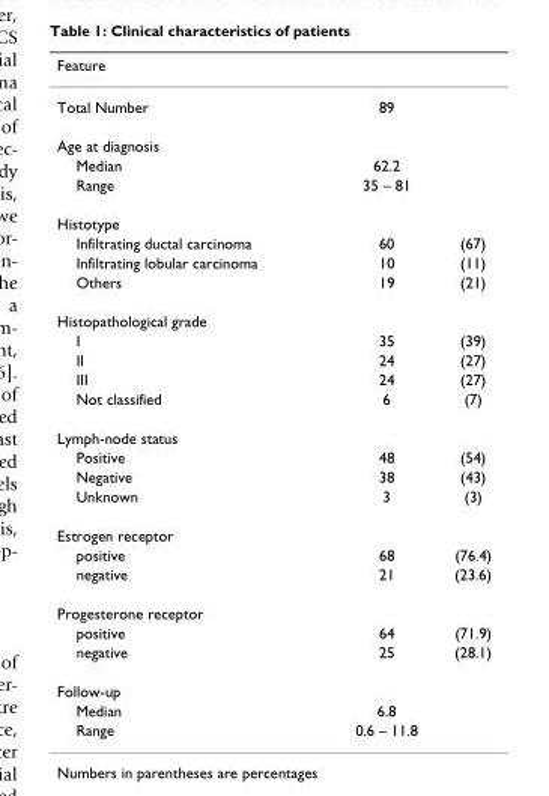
<table><thead><tr><td>Feature</td><td></td><td></td></tr></thead><tbody><tr><td>Total Number</td><td>89</td><td></td></tr><tr><td colspan="3">Age at diagnosis</td></tr><tr><td>Median</td><td>62.2</td><td></td></tr><tr><td>Range</td><td>35 – 81</td><td></td></tr><tr><td colspan="3">Histotype</td></tr><tr><td>Infiltrating ductal carcinoma</td><td>60</td><td>(67)</td></tr><tr><td>Infiltrating lobular carcinoma</td><td>10</td><td>(11)</td></tr><tr><td>Others</td><td>19</td><td>(21)</td></tr><tr><td colspan="3">Histopathological grade</td></tr><tr><td>I</td><td>35</td><td>(39)</td></tr><tr><td>II</td><td>24</td><td>(27)</td></tr><tr><td>III</td><td>24</td><td>(27)</td></tr><tr><td>Not classified</td><td>6</td><td>(7)</td></tr><tr><td colspan="3">Lymph-node status</td></tr><tr><td>Positive</td><td>48</td><td>(54)</td></tr><tr><td>Negative</td><td>38</td><td>(43)</td></tr><tr><td>Unknown</td><td>3</td><td>(3)</td></tr><tr><td colspan="3">Estrogen receptor</td></tr><tr><td>positive</td><td>68</td><td>(76.4)</td></tr><tr><td>negative</td><td>21</td><td>(23.6)</td></tr><tr><td colspan="3">Progesterone receptor</td></tr><tr><td>positive</td><td>64</td><td>(71.9)</td></tr><tr><td>negative</td><td>25</td><td>(28.1)</td></tr><tr><td colspan="3">Follow-up</td></tr><tr><td>Median</td><td>6.8</td><td></td></tr><tr><td>Range</td><td>0.6 – 11.8</td><td></td></tr></tbody></table>